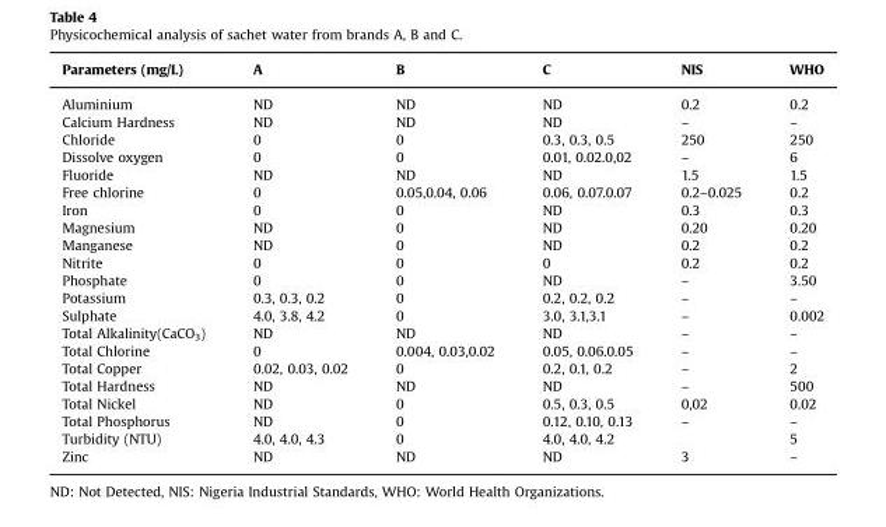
<table><thead><tr><td>Parameters (mg/L)</td><td>A</td><td>B</td><td>C</td><td>NIS</td><td>WHO</td></tr></thead><tbody><tr><td>Aluminium</td><td>ND</td><td>ND</td><td>ND</td><td>0.2</td><td>0.2</td></tr><tr><td>Calcium Hardness</td><td>ND</td><td>ND</td><td>ND</td><td>–</td><td>–</td></tr><tr><td>Chloride</td><td>0</td><td>0</td><td>0.3, 0.3, 0.5</td><td>250</td><td>250</td></tr><tr><td>Dissolve oxygen</td><td>0</td><td>0</td><td>0.01, 0.02.0,02</td><td>–</td><td>6</td></tr><tr><td>Fluoride</td><td>ND</td><td>ND</td><td>ND</td><td>1.5</td><td>1.5</td></tr><tr><td>Free chlorine</td><td>0</td><td>0.05,0.04, 0.06</td><td>0.06, 0.07.0.07</td><td>0.2–0.025</td><td>0.2</td></tr><tr><td>Iron</td><td>0</td><td>0</td><td>ND</td><td>0.3</td><td>0.3</td></tr><tr><td>Magnesium</td><td>ND</td><td>0</td><td>ND</td><td>0.20</td><td>0.20</td></tr><tr><td>Manganese</td><td>ND</td><td>0</td><td>ND</td><td>0.2</td><td>0.2</td></tr><tr><td>Nitrite</td><td>0</td><td>0</td><td>0</td><td>0.2</td><td>0.2</td></tr><tr><td>Phosphate</td><td>0</td><td>0</td><td>ND</td><td>–</td><td>3.50</td></tr><tr><td>Potassium</td><td>0.3, 0.3, 0.2</td><td>0</td><td>0.2, 0.2, 0.2</td><td>–</td><td>–</td></tr><tr><td>Sulphate</td><td>4.0, 3.8, 4.2</td><td>0</td><td>3.0, 3.1,3.1</td><td>–</td><td>0.002</td></tr><tr><td>Total Alkalinity(CaCO<sub>3</sub>)</td><td>ND</td><td>ND</td><td>ND</td><td>–</td><td>–</td></tr><tr><td>Total Chlorine</td><td>0</td><td>0.004, 0.03,0.02</td><td>0.05, 0.06.0.05</td><td>–</td><td>–</td></tr><tr><td>Total Copper</td><td>0.02, 0.03, 0.02</td><td>0</td><td>0.2, 0.1, 0.2</td><td>–</td><td>2</td></tr><tr><td>Total Hardness</td><td>ND</td><td>ND</td><td>ND</td><td>–</td><td>500</td></tr><tr><td>Total Nickel</td><td>ND</td><td>0</td><td>0.5, 0.3, 0.5</td><td>0,02</td><td>0.02</td></tr><tr><td>Total Phosphorus</td><td>ND</td><td>0</td><td>0.12, 0.10, 0.13</td><td>–</td><td>–</td></tr><tr><td>Turbidity (NTU)</td><td>4.0, 4.0, 4.3</td><td>0</td><td>4.0, 4.0, 4.2</td><td></td><td>5</td></tr><tr><td>Zinc</td><td>ND</td><td>ND</td><td>ND</td><td>3</td><td>–</td></tr></tbody></table>